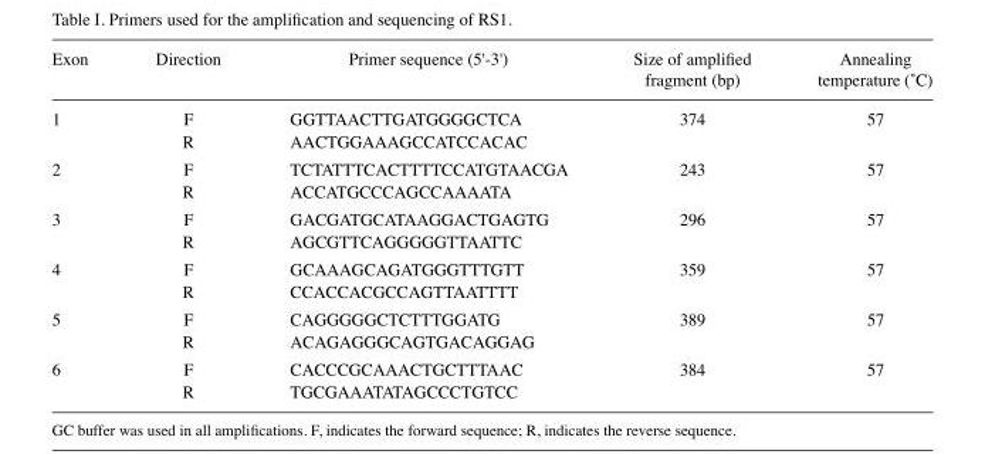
<table><thead><tr><td>Exon</td><td>Direction</td><td>Primer sequence (5&#x27;-3&#x27;)</td><td>Size of amplified fragment (bp)</td><td>Annealing temperature (˚C)</td></tr></thead><tbody><tr><td rowspan="2">1</td><td>F</td><td>GGTTAACTTGATGGGGCTCA</td><td rowspan="2">374</td><td rowspan="2">57</td></tr><tr><td>R</td><td>AACTGGAAAGCCATCCACAC</td></tr><tr><td rowspan="2">2</td><td>F</td><td>TCTATTTCACTTTTCCATGTAACGA</td><td rowspan="2">243</td><td rowspan="2">57</td></tr><tr><td>R</td><td>ACCATGCCCAGCCAAAATA</td></tr><tr><td rowspan="2">3</td><td>F</td><td>GACGATGCATAAGGACTGAGTG</td><td rowspan="2">296</td><td rowspan="2">57</td></tr><tr><td>R</td><td>AGCGTTCAGGGGGTTAATTC</td></tr><tr><td rowspan="2">4</td><td>F</td><td>GCAAAGCAGATGGGTTTGTT</td><td rowspan="2">359</td><td rowspan="2">57</td></tr><tr><td>R</td><td>CCACCACGCCAGTTAATTTT</td></tr><tr><td rowspan="2">5</td><td>F</td><td>CAGGGGGCTCTTTGGATG</td><td rowspan="2">389</td><td rowspan="2">57</td></tr><tr><td>R</td><td>ACAGAGGGCAGTGACAGGAG</td></tr><tr><td rowspan="2">6</td><td>F</td><td>CACCCGCAAACTGCTTTAAC</td><td rowspan="2">384</td><td rowspan="2">57</td></tr><tr><td>R</td><td>TGCGAAATATAGCCCTGTCC</td></tr></tbody></table>